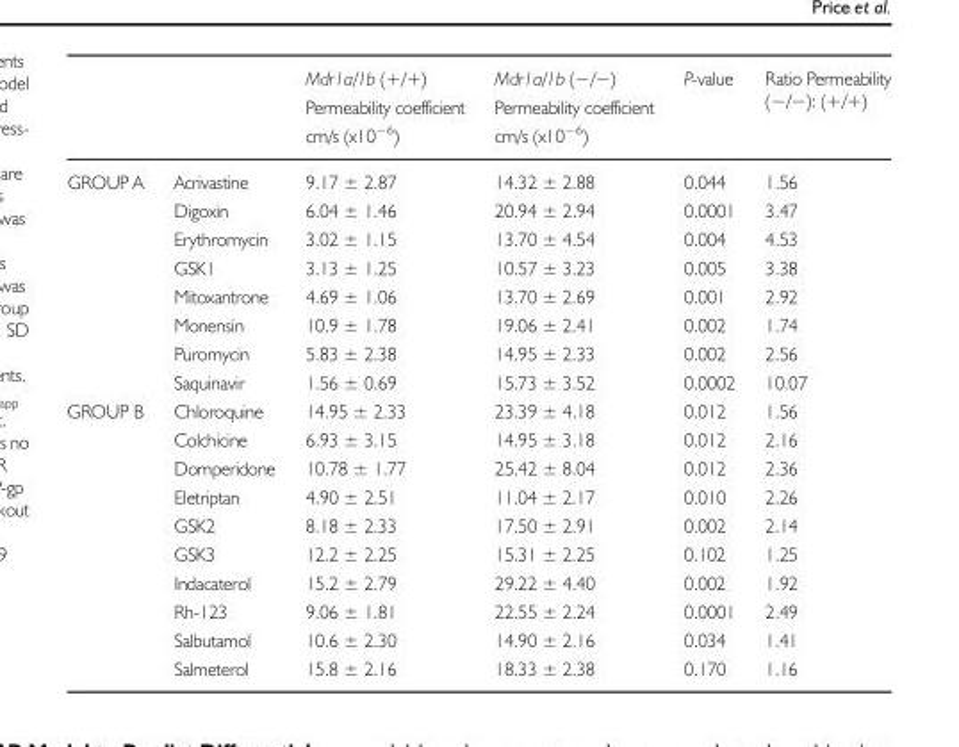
<table><thead><tr><td></td><td></td><td>Mdr1a/1b (+/+) Permeability coefficient cm/s (x10<sup>−6</sup>)</td><td>Mdr1a/1b (−/−) Permeability coefficient cm/s (x10<sup>−6</sup>)</td><td>P-value</td><td>Ratio Permeability (−/−): (+/+)</td></tr></thead><tbody><tr><td rowspan="8">GROUP A</td><td>Acrivastine</td><td>9.17 ± 2.87</td><td>14.32 ± 2.88</td><td>0.044</td><td>1.56</td></tr><tr><td>Digoxin</td><td>6.04 ± 1.46</td><td>20.94 ± 2.94</td><td>0.0001</td><td>3.47</td></tr><tr><td>Erythromycin</td><td>3.02 ± 1.15</td><td>13.70 ± 4.54</td><td>0.004</td><td>4.53</td></tr><tr><td>GSK1</td><td>3.13 ± 1.25</td><td>10.57 ± 3.23</td><td>0.005</td><td>3.38</td></tr><tr><td>Mitoxantrone</td><td>4.69 ± 1.06</td><td>13.70 ± 2.69</td><td>0.001</td><td>2.92</td></tr><tr><td>Monensin</td><td>10.9 ± 1.78</td><td>19.06 ± 2.41</td><td>0.002</td><td>1.74</td></tr><tr><td>Puromycin</td><td>5.83 ± 2.38</td><td>14.95 ± 2.33</td><td>0.002</td><td>2.56</td></tr><tr><td>Saquinavir</td><td>1.56 ± 0.69</td><td>15.73 ± 3.52</td><td>0.0002</td><td>10.07</td></tr><tr><td rowspan="10">GROUP B</td><td>Chloroquine</td><td>14.95 ± 2.33</td><td>23.39 ± 4.18</td><td>0.012</td><td>1.56</td></tr><tr><td>Colchicine</td><td>6.93 ± 3.15</td><td>14.95 ± 3.18</td><td>0.012</td><td>2.16</td></tr><tr><td>Domperidone</td><td>10.78 ± 1.77</td><td>25.42 ± 8.04</td><td>0.012</td><td>2.36</td></tr><tr><td>Eletriptan</td><td>4.90 ± 2.51</td><td>11.04 ± 2.17</td><td>0.010</td><td>2.26</td></tr><tr><td>GSK2</td><td>8.18 ± 2.33</td><td>17.50 ± 2.91</td><td>0.002</td><td>2.14</td></tr><tr><td>GSK3</td><td>12.2 ± 2.25</td><td>15.31 ± 2.25</td><td>0.102</td><td>1.25</td></tr><tr><td>Indacaterol</td><td>15.2 ± 2.79</td><td>29.22 ± 4.40</td><td>0.002</td><td>1.92</td></tr><tr><td>Rh-123</td><td>9.06 ± 1.81</td><td>22.55 ± 2.24</td><td>0.0001</td><td>2.49</td></tr><tr><td>Salbutamol</td><td>10.6 ± 2.30</td><td>14.90 ± 2.16</td><td>0.034</td><td>1.41</td></tr><tr><td>Salmeterol</td><td>15.8 ± 2.16</td><td>18.33 ± 2.38</td><td>0.170</td><td>1.16</td></tr></tbody></table>